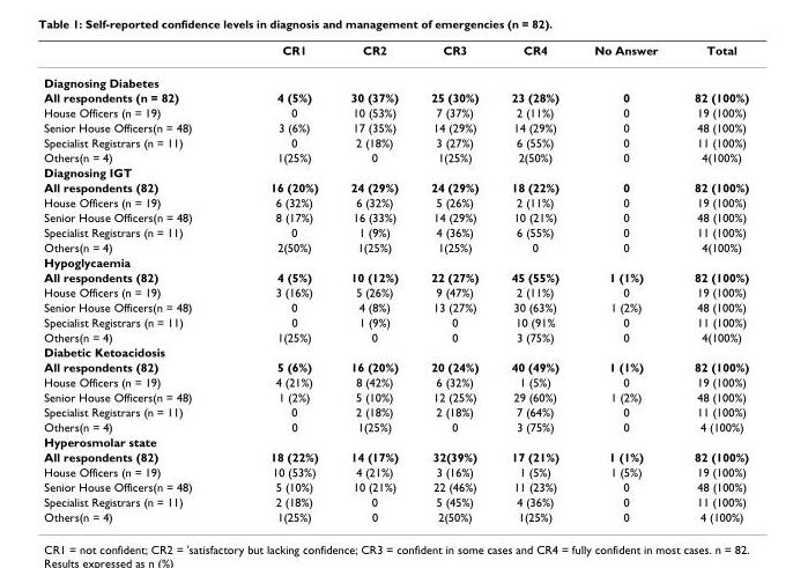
<table><thead><tr><td></td><td>CR1</td><td>CR2</td><td>CR3</td><td>CR4</td><td>No Answer</td><td>Total</td></tr></thead><tbody><tr><td colspan="7">Diagnosing Diabetes</td></tr><tr><td>All respondents (n = 82)</td><td>4 (5%)</td><td>30 (37%)</td><td>25 (30%)</td><td>23 (28%)</td><td>0</td><td>82 (100%)</td></tr><tr><td>House Officers (n = 19)</td><td>0</td><td>10 (53%)</td><td>7 (37%)</td><td>2 (11%)</td><td>0</td><td>19 (100%)</td></tr><tr><td>Senior House Officers(n = 48)</td><td>3 (6%)</td><td>17 (35%)</td><td>14 (29%)</td><td>14 (29%)</td><td>0</td><td>48 (100%)</td></tr><tr><td>Specialist Registrars (n = 11)</td><td>0</td><td>2 (18%)</td><td>3 (27%)</td><td>6 (55%)</td><td>0</td><td>11 (100%)</td></tr><tr><td>Others(n = 4)</td><td>1(25%)</td><td>0</td><td>1(25%)</td><td>2(50%)</td><td>0</td><td>4(100%)</td></tr><tr><td colspan="7">Diagnosing IGT</td></tr><tr><td>All respondents (82)</td><td>16 (20%)</td><td>24 (29%)</td><td>24 (29%)</td><td>18 (22%)</td><td>0</td><td>82 (100%)</td></tr><tr><td>House Officers (n = 19)</td><td>6 (32%)</td><td>6 (32%)</td><td>5 (26%)</td><td>2 (11%)</td><td>0</td><td>19 (100%)</td></tr><tr><td>Senior House Officers(n = 48)</td><td>8 (17%)</td><td>16 (33%)</td><td>14 (29%)</td><td>10 (21%)</td><td>0</td><td>48 (100%)</td></tr><tr><td>Specialist Registrars (n = 11)</td><td>0</td><td>1 (9%)</td><td>4 (36%)</td><td>6 (55%)</td><td>0</td><td>11 (100%)</td></tr><tr><td>Others(n = 4)</td><td>2(50%)</td><td>1(25%)</td><td>1(25%)</td><td>0</td><td>0</td><td>4(100%)</td></tr><tr><td colspan="7">Hypoglycaemia</td></tr><tr><td>All respondents (82)</td><td>4 (5%)</td><td>10 (12%)</td><td>22 (27%)</td><td>45 (55%)</td><td>1 (1%)</td><td>82 (100%)</td></tr><tr><td>House Officers (n = 19)</td><td>3 (16%)</td><td>5 (26%)</td><td>9 (47%)</td><td>2 (11%)</td><td>0</td><td>19 (100%)</td></tr><tr><td>Senior House Officers(n = 48)</td><td>0</td><td>4 (8%)</td><td>13 (27%)</td><td>30 (63%)</td><td>1 (2%)</td><td>48 (100%)</td></tr><tr><td>Specialist Registrars (n = 11)</td><td>0</td><td>1 (9%)</td><td>0</td><td>10 (91%</td><td>0</td><td>11 (100%)</td></tr><tr><td>Others(n = 4)</td><td>1(25%)</td><td>0</td><td>0</td><td>3 (75%)</td><td>0</td><td>4(100%)</td></tr><tr><td colspan="7">Diabetic Ketoacidosis</td></tr><tr><td>All respondents (82)</td><td>5 (6%)</td><td>16 (20%)</td><td>20 (24%)</td><td>40 (49%)</td><td>1 (1%)</td><td>82 (100%)</td></tr><tr><td>House Officers (n = 19)</td><td>4 (21%)</td><td>8 (42%)</td><td>6 (32%)</td><td>1 (5%)</td><td>0</td><td>19 (100%)</td></tr><tr><td>Senior House Officers(n = 48)</td><td>1 (2%)</td><td>5 (10%)</td><td>12 (25%)</td><td>29 (60%)</td><td>1 (2%)</td><td>48 (100%)</td></tr><tr><td>Specialist Registrars (n = 11)</td><td>0</td><td>2 (18%)</td><td>2 (18%)</td><td>7 (64%)</td><td>0</td><td>11 (100%)</td></tr><tr><td>Others(n = 4)</td><td>0</td><td>1(25%)</td><td>0</td><td>3 (75%)</td><td>0</td><td>4 (100%)</td></tr><tr><td colspan="7">Hyperosmolar state</td></tr><tr><td>All respondents (82)</td><td>18 (22%)</td><td>14 (17%)</td><td>32(39%)</td><td>17 (21%)</td><td>1 (1%)</td><td>82 (100%)</td></tr><tr><td>House Officers (n = 19)</td><td>10 (53%)</td><td>4 (21%)</td><td>3 (16%)</td><td>1 (5%)</td><td>1 (5%)</td><td>19 (100%)</td></tr><tr><td>Senior House Officers(n = 48)</td><td>5 (10%)</td><td>10 (21%)</td><td>22 (46%)</td><td>11 (23%)</td><td>0</td><td>48 (100%)</td></tr><tr><td>Specialist Registrars (n = 11)</td><td>2 (18%)</td><td>0</td><td>5 (45%)</td><td>4 (36%)</td><td>0</td><td>11 (100%)</td></tr><tr><td>Others(n = 4)</td><td>1(25%)</td><td>0</td><td>2(50%)</td><td>1(25%)</td><td>0</td><td>4 (100%)</td></tr></tbody></table>